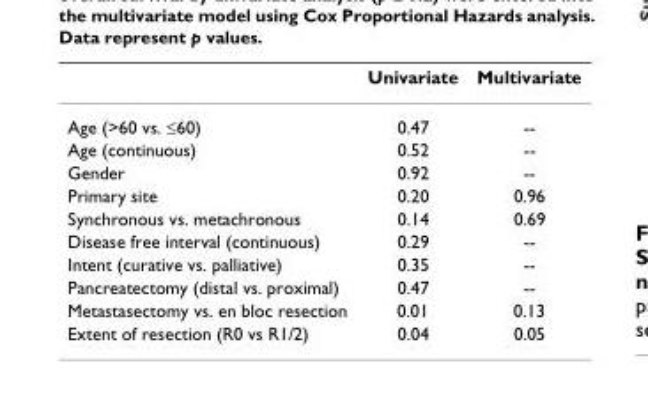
<table><thead><tr><td></td><td>Univariate</td><td>Multivariate</td></tr></thead><tbody><tr><td>Age (&gt;60 vs. ≤60)</td><td>0.47</td><td>--</td></tr><tr><td>Age (continuous)</td><td>0.52</td><td>--</td></tr><tr><td>Gender</td><td>0.92</td><td>--</td></tr><tr><td>Primary site</td><td>0.20</td><td>0.96</td></tr><tr><td>Synchronous vs. metachronous</td><td>0.14</td><td>0.69</td></tr><tr><td>Disease free interval (continuous)</td><td>0.29</td><td>--</td></tr><tr><td>Intent (curative vs. palliative)</td><td>0.35</td><td>--</td></tr><tr><td>Pancreatectomy (distal vs. proximal)</td><td>0.47</td><td>--</td></tr><tr><td>Metastasectomy vs. en bloc resection</td><td>0.01</td><td>0.13</td></tr><tr><td>Extent of resection (R0 vs R1/2)</td><td>0.04</td><td>0.05</td></tr></tbody></table>